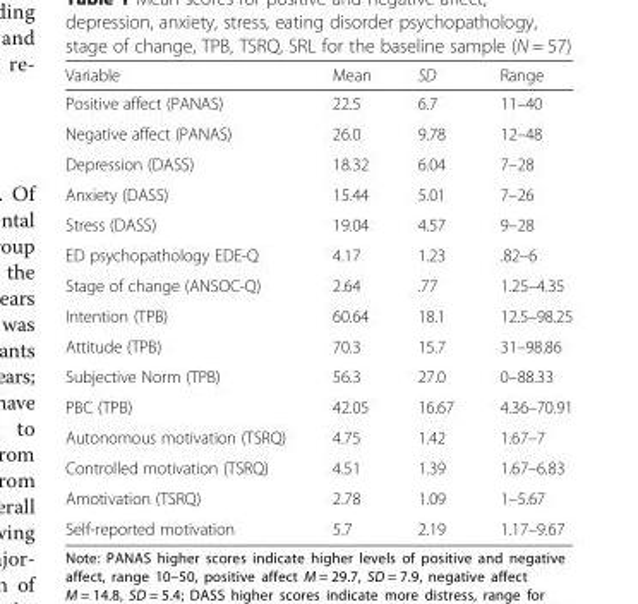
<table><thead><tr><td>Variable</td><td>Mean</td><td>SD</td><td>Range</td></tr></thead><tbody><tr><td>Positive affect (PANAS)</td><td>22.5</td><td>6.7</td><td>11–40</td></tr><tr><td>Negative affect (PANAS)</td><td>26.0</td><td>9.78</td><td>12–48</td></tr><tr><td>Depression (DASS)</td><td>18.32</td><td>6.04</td><td>7–28</td></tr><tr><td>Anxiety (DASS)</td><td>15.44</td><td>5.01</td><td>7–26</td></tr><tr><td>Stress (DASS)</td><td>19.04</td><td>4.57</td><td>9–28</td></tr><tr><td>ED psychopathology EDE-Q</td><td>4.17</td><td>1.23</td><td>.82–6</td></tr><tr><td>Stage of change (ANSOC-Q)</td><td>2.64</td><td>.77</td><td>1.25–4.35</td></tr><tr><td>Intention (TPB)</td><td>60.64</td><td>18.1</td><td>12.5–98.25</td></tr><tr><td>Attitude (TPB)</td><td>70.3</td><td>15.7</td><td>31–98.86</td></tr><tr><td>Subjective Norm (TPB)</td><td>56.3</td><td>27.0</td><td>0–88.33</td></tr><tr><td>PBC (TPB)</td><td>42.05</td><td>16.67</td><td>4.36–70.91</td></tr><tr><td>Autonomous motivation (TSRQ)</td><td>4.75</td><td>1.42</td><td>1.67–7</td></tr><tr><td>Controlled motivation (TSRQ)</td><td>4.51</td><td>1.39</td><td>1.67–6.83</td></tr><tr><td>Amotivation (TSRQ)</td><td>2.78</td><td>1.09</td><td>1–5.67</td></tr><tr><td>Self-reported motivation</td><td>5.7</td><td>2.19</td><td>1.17–9.67</td></tr></tbody></table>